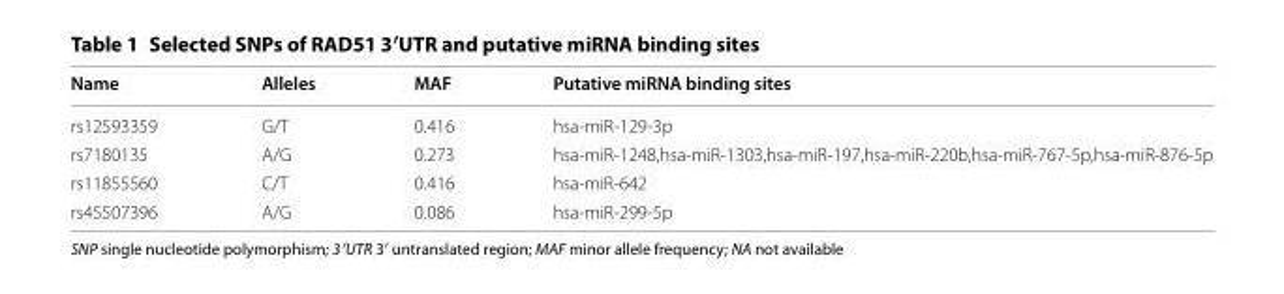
<table><thead><tr><td>Name</td><td>Alleles</td><td>MAF</td><td>Putative miRNA binding sites</td></tr></thead><tbody><tr><td>rs12593359</td><td>G/T</td><td>0.416</td><td>hsa-miR-129-3p</td></tr><tr><td>rs7180135</td><td>A/G</td><td>0.273</td><td>hsa-miR-1248,hsa-miR-1303,hsa-miR-197,hsa-miR-220b,hsa-miR-767-5p,hsa-miR-876-5p</td></tr><tr><td>rs11855560</td><td>C/T</td><td>0.416</td><td>hsa-miR-642</td></tr><tr><td>rs45507396</td><td>A/G</td><td>0.086</td><td>hsa-miR-299-5p</td></tr></tbody></table>